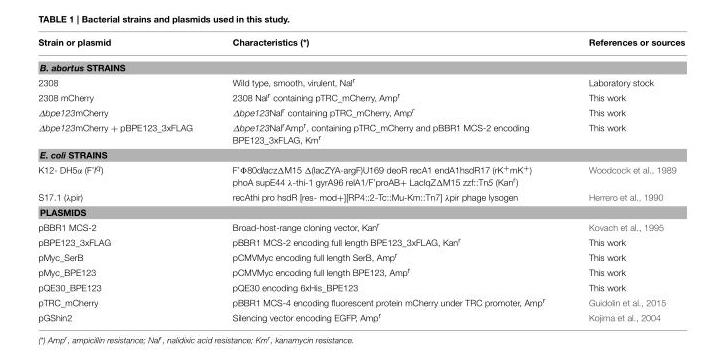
<table><thead><tr><td>Strain or plasmid</td><td>Characteristics (*)</td><td>References or sources</td></tr></thead><tbody><tr><td colspan="3">B. abortus STRAINS</td></tr><tr><td>2308</td><td>Wild type, smooth, virulent, Nal<sup>r</sup></td><td>Laboratory stock</td></tr><tr><td>2308 mCherry</td><td>2308 Nal<sup>r</sup> containing pTRC_mCherry, Amp<sup>r</sup></td><td>This work</td></tr><tr><td>∆bpe123mCherry</td><td>∆bpe123Nalr containing pTRC_mCherry, Ampr</td><td>This work</td></tr><tr><td>∆bpe123mCherry + pBPE123_3xFLAG</td><td>∆bpe123NalrAmpr, containing pTRC_mCherry and pBBR1 MCS-2 encoding BPE123_3xFLAG, Kmr</td><td>This work</td></tr><tr><td colspan="3">E. coli STRAINS</td></tr><tr><td>K12- DH5α (F’I<sup>q</sup>)</td><td>F’Φ80dlaczΔM15 Δ(lacZYA-argF)U169 deoR recA1 endA1hsdR17 (rK<sup>+</sup>mK<sup>+</sup>) phoA supE44 λ-thi-1 gyrA96 relA1/F’proAB+ LacIqZΔM15 zzf::Tn5 (Kan<sup>r</sup>)</td><td>Woodcock et al., 1989</td></tr><tr><td>S17.1 (λpir)</td><td>recAthi pro hsdR [res- mod+][RP4::2-Tc::Mu-Km::Tn7] λpir phage lysogen</td><td>Herrero et al., 1990</td></tr><tr><td colspan="3">PLASMIDS</td></tr><tr><td>pBBR1 MCS-2</td><td>Broad-host-range cloning vector, Kan<sup>r</sup></td><td>Kovach et al., 1995</td></tr><tr><td>pBPE123_3xFLAG</td><td>pBBR1 MCS-2 encoding full length BPE123_3xFLAG, Kan<sup>r</sup></td><td>This work</td></tr><tr><td>pMyc_SerB</td><td>pCMVMyc encoding full length SerB, Amp<sup>r</sup></td><td>This work</td></tr><tr><td>pMyc_BPE123</td><td>pCMVMyc encoding full length BPE123, Amp<sup>r</sup></td><td>This work</td></tr><tr><td>pQE30_BPE123</td><td>pQE30 encoding 6xHis_BPE123</td><td>This work</td></tr><tr><td>pTRC_mCherry</td><td>pBBR1 MCS-4 encoding fluorescent protein mCherry under TRC promoter, Amp<sup>r</sup></td><td>Guidolin et al., 2015</td></tr><tr><td>pGShin2</td><td>Silencing vector encoding EGFP, Amp<sup>r</sup></td><td>Kojima et al., 2004</td></tr></tbody></table>